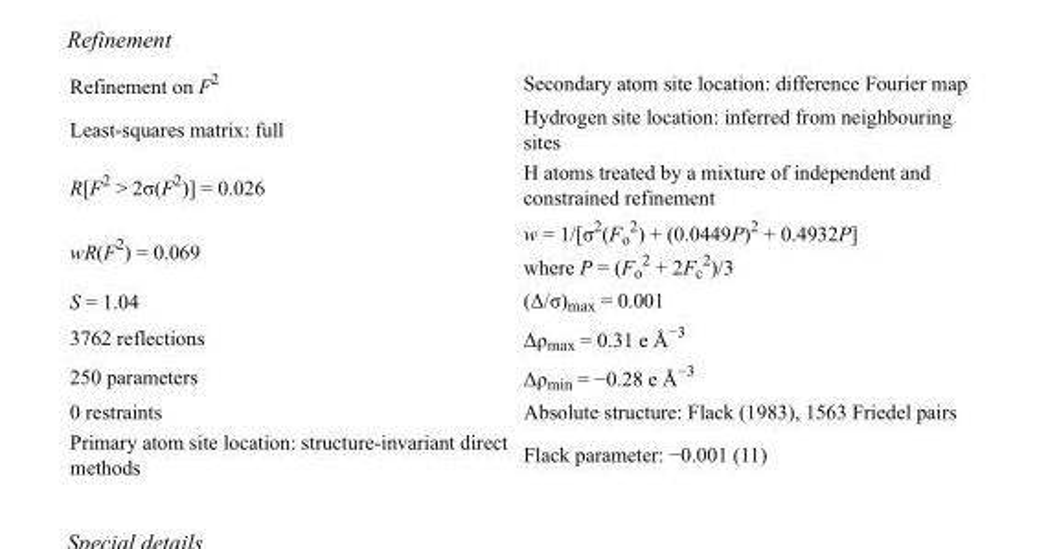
<table><tbody><tr><td>Refinement on F<sup>2</sup></td><td>Secondary atom site location: difference Fourier map</td></tr><tr><td>Least-squares matrix: full</td><td>Hydrogen site location: inferred from neighbouring sites</td></tr><tr><td>R[F<sup>2</sup> &gt; 2σ(F<sup>2</sup>)] = 0.026</td><td>H atoms treated by a mixture of independent and constrained refinement</td></tr><tr><td>wR(F<sup>2</sup>) = 0.069</td><td>w = 1/[σ<sup>2</sup>(F<sub>o</sub> <sup>2</sup>) + (0.0449P)<sup>2</sup> + 0.4932P] where P = (F<sub>o</sub> <sup>2</sup> + 2F<sub>c</sub> <sup>2</sup>)/3</td></tr><tr><td>S = 1.04</td><td>(Δ/σ)<sub>max</sub> = 0.001</td></tr><tr><td>3762 reflections</td><td>Δρ<sub>max</sub> = 0.31 e Å<sup>−3</sup></td></tr><tr><td>250 parameters</td><td>Δρ<sub>min</sub> = −0.28 e Å<sup>−3</sup></td></tr><tr><td>0 restraints</td><td>Absolute structure: Flack (1983), 1563 Friedel pairs</td></tr><tr><td>Primary atom site location: structure-invariant direct methods</td><td>Flack parameter: −0.001 (11)</td></tr></tbody></table>